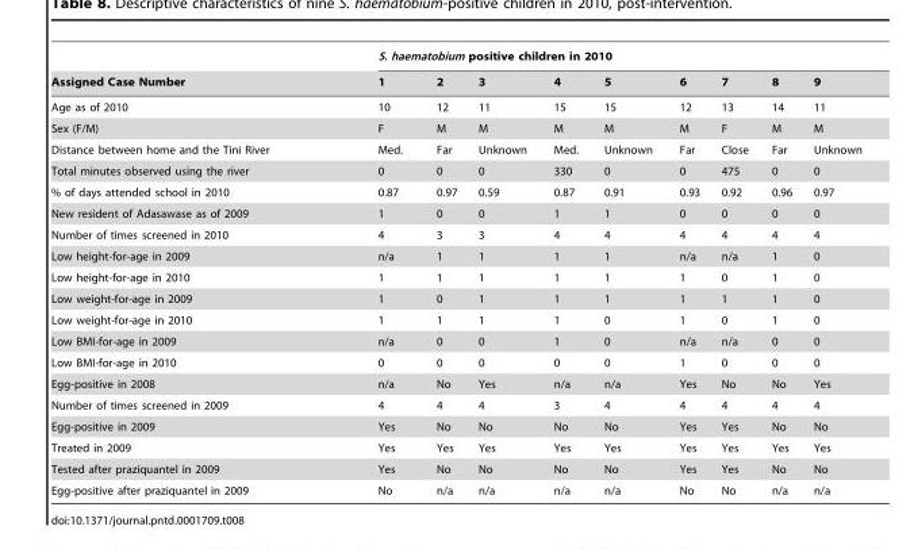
<table><thead><tr><td rowspan="2">Assigned Case Number</td><td colspan="9">S. haematobium positive children in 2010</td></tr><tr><td>1</td><td>2</td><td>3</td><td>4</td><td>5</td><td>6</td><td>7</td><td>8</td><td>9</td></tr></thead><tbody><tr><td>Age as of 2010</td><td>10</td><td>12</td><td>11</td><td>15</td><td>15</td><td>12</td><td>13</td><td>14</td><td>11</td></tr><tr><td>Sex (F/M)</td><td>F</td><td>M</td><td>M</td><td>M</td><td>M</td><td>M</td><td>F</td><td>M</td><td>M</td></tr><tr><td>Distance between home and the Tini River</td><td>Med.</td><td>Far</td><td>Unknown</td><td>Med.</td><td>Unknown</td><td>Far</td><td>Close</td><td>Far</td><td>Unknown</td></tr><tr><td>Total minutes observed using the river</td><td>0</td><td>0</td><td>0</td><td>330</td><td>0</td><td>0</td><td>475</td><td>0</td><td>0</td></tr><tr><td>% of days attended school in 2010</td><td>0.87</td><td>0.97</td><td>0.59</td><td>0.87</td><td>0.91</td><td>0.93</td><td>0.92</td><td>0.96</td><td>0.97</td></tr><tr><td>New resident of Adasawase as of 2009</td><td>1</td><td>0</td><td>0</td><td>1</td><td>1</td><td>0</td><td>0</td><td>0</td><td>0</td></tr><tr><td>Number of times screened in 2010</td><td>4</td><td>3</td><td>3</td><td>4</td><td>4</td><td>4</td><td>4</td><td>4</td><td>4</td></tr><tr><td>Low height-for-age in 2009</td><td>n/a</td><td>1</td><td>1</td><td>1</td><td>1</td><td>n/a</td><td>n/a</td><td>1</td><td>0</td></tr><tr><td>Low height-for-age in 2010</td><td>1</td><td>1</td><td>1</td><td>1</td><td>1</td><td>1</td><td>0</td><td>1</td><td>0</td></tr><tr><td>Low weight-for-age in 2009</td><td>1</td><td>0</td><td>1</td><td>1</td><td>1</td><td>1</td><td>1</td><td>1</td><td>0</td></tr><tr><td>Low weight-for-age in 2010</td><td>1</td><td>1</td><td>1</td><td>1</td><td>0</td><td>1</td><td>0</td><td>1</td><td>0</td></tr><tr><td>Low BMI-for-age in 2009</td><td>n/a</td><td>0</td><td>0</td><td>1</td><td>0</td><td>n/a</td><td>n/a</td><td>0</td><td>0</td></tr><tr><td>Low BMI-for-age in 2010</td><td>0</td><td>0</td><td>0</td><td>0</td><td>0</td><td>1</td><td>0</td><td>0</td><td>0</td></tr><tr><td>Egg-positive in 2008</td><td>n/a</td><td>No</td><td>Yes</td><td>n/a</td><td>n/a</td><td>Yes</td><td>No</td><td>No</td><td>Yes</td></tr><tr><td>Number of times screened in 2009</td><td>4</td><td>4</td><td>4</td><td>3</td><td>4</td><td>4</td><td>4</td><td>4</td><td>4</td></tr><tr><td>Egg-positive in 2009</td><td>Yes</td><td>No</td><td>No</td><td>No</td><td>No</td><td>Yes</td><td>Yes</td><td>No</td><td>No</td></tr><tr><td>Treated in 2009</td><td>Yes</td><td>Yes</td><td>Yes</td><td>Yes</td><td>Yes</td><td>Yes</td><td>Yes</td><td>Yes</td><td>Yes</td></tr><tr><td>Tested after praziquantel in 2009</td><td>Yes</td><td>No</td><td>No</td><td>No</td><td>No</td><td>Yes</td><td>Yes</td><td>No</td><td>No</td></tr><tr><td>Egg-positive after praziquantel in 2009</td><td>No</td><td>n/a</td><td>n/a</td><td>n/a</td><td>n/a</td><td>No</td><td>No</td><td>n/a</td><td>n/a</td></tr></tbody></table>